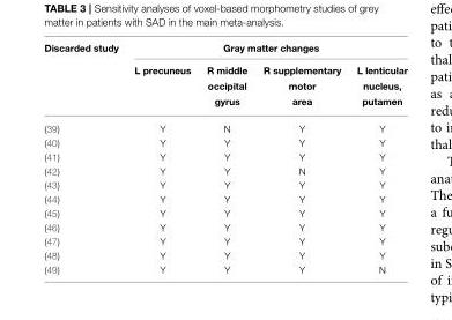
<table><thead><tr><td rowspan="4">Discarded study</td><td colspan="4">Gray matter changes</td></tr><tr><td rowspan="3">L precuneus</td><td rowspan="3">R middle occipital gyrus</td><td rowspan="3">R supplementary motor area</td><td rowspan="3">L lenticular nucleus, putamen</td></tr><tr></tr><tr></tr></thead><tbody><tr><td>(39)</td><td>Y</td><td>N</td><td>Y</td><td>Y</td></tr><tr><td>(40)</td><td>Y</td><td>Y</td><td>Y</td><td>Y</td></tr><tr><td>(41)</td><td>Y</td><td>Y</td><td>Y</td><td>Y</td></tr><tr><td>(42)</td><td>Y</td><td>Y</td><td>N</td><td>Y</td></tr><tr><td>(43)</td><td>Y</td><td>Y</td><td>Y</td><td>Y</td></tr><tr><td>(44)</td><td>Y</td><td>Y</td><td>Y</td><td>Y</td></tr><tr><td>(45)</td><td>Y</td><td>Y</td><td>Y</td><td>Y</td></tr><tr><td>(46)</td><td>Y</td><td>Y</td><td>Y</td><td>Y</td></tr><tr><td>(47)</td><td>Y</td><td>Y</td><td>Y</td><td>Y</td></tr><tr><td>(48)</td><td>Y</td><td>Y</td><td>Y</td><td>Y</td></tr><tr><td>(49)</td><td>Y</td><td>Y</td><td>Y</td><td>N</td></tr></tbody></table>